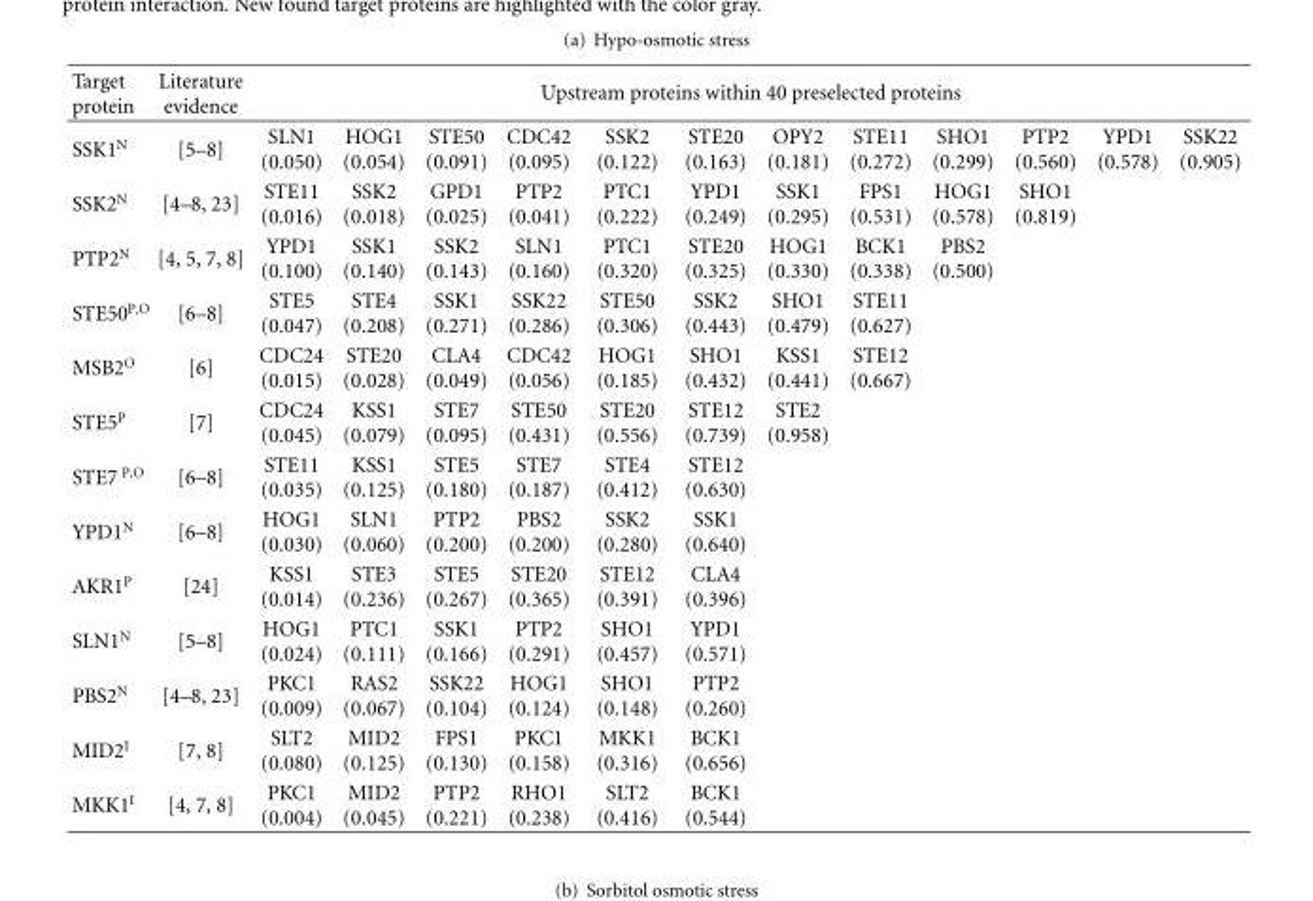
<table><thead><tr><td rowspan="2">Target protein SSK1<sup>N</sup></td><td rowspan="2">Literature evidence [5–8]</td><td colspan="12">Upstream proteins within 40 preselected proteins</td></tr><tr><td>SLN1 (0.050)</td><td>HOG1 (0.054)</td><td>STE50 (0.091)</td><td>CDC42 (0.095)</td><td>SSK2 (0.122)</td><td>STE20 (0.163)</td><td>OPY2 (0.181)</td><td>STE11 (0.272)</td><td>SHO1 (0.299)</td><td>PTP2 (0.560)</td><td>YPD1 (0.578)</td><td>SSK22 (0.905)</td></tr></thead><tbody><tr><td>SSK2<sup>N</sup></td><td>[4–8, 23]</td><td>STE11 (0.016)</td><td>SSK2 (0.018)</td><td>GPD1 (0.025)</td><td>PTP2 (0.041)</td><td>PTC1 (0.222)</td><td>YPD1 (0.249)</td><td>SSK1 (0.295)</td><td>FPS1 (0.531)</td><td>HOG1 (0.578)</td><td>SHO1 (0.819)</td><td></td><td></td></tr><tr><td>PTP2<sup>N</sup></td><td>[4, 5, 7, 8]</td><td>YPD1 (0.100)</td><td>SSK1 (0.140)</td><td>SSK2 (0.143)</td><td>SLN1 (0.160)</td><td>PTC1 (0.320)</td><td>STE20 (0.325)</td><td>HOG1 (0.330)</td><td>BCK1 (0.338)</td><td>PBS2 (0.500)</td><td></td><td></td><td></td></tr><tr><td>STE50<sup>P,O</sup></td><td>[6–8]</td><td>STE5 (0.047)</td><td>STE4 (0.208)</td><td>SSK1 (0.271)</td><td>SSK22 (0.286)</td><td>STE50 (0.306)</td><td>SSK2 (0.443)</td><td>SHO1 (0.479)</td><td>STE11 (0.627)</td><td></td><td></td><td></td><td></td></tr><tr><td>MSB2<sup>O</sup></td><td>[6]</td><td>CDC24 (0.015)</td><td>STE20 (0.028)</td><td>CLA4 (0.049)</td><td>CDC42 (0.056)</td><td>HOG1 (0.185)</td><td>SHO1 (0.432)</td><td>KSS1 (0.441)</td><td>STE12 (0.667)</td><td></td><td></td><td></td><td></td></tr><tr><td>STE5<sup>P</sup></td><td>[7]</td><td>CDC24 (0.045)</td><td>KSS1 (0.079)</td><td>STE7 (0.095)</td><td>STE50 (0.431)</td><td>STE20 (0.556)</td><td>STE12 (0.739)</td><td>STE2 (0.958)</td><td></td><td></td><td></td><td></td><td></td></tr><tr><td>STE7 <sup>P,O</sup></td><td>[6–8]</td><td>STE11 (0.035)</td><td>KSS1 (0.125)</td><td>STE5 (0.180)</td><td>STE7 (0.187)</td><td>STE4 (0.412)</td><td>STE12 (0.630)</td><td></td><td></td><td></td><td></td><td></td><td></td></tr><tr><td>YPD1<sup>N</sup></td><td>[6–8]</td><td>HOG1 (0.030)</td><td>SLN1 (0.060)</td><td>PTP2 (0.200)</td><td>PBS2 (0.200)</td><td>SSK2 (0.280)</td><td>SSK1 (0.640)</td><td></td><td></td><td></td><td></td><td></td><td></td></tr><tr><td>AKR1<sup>P</sup></td><td>[24]</td><td>KSS1 (0.014)</td><td>STE3 (0.236)</td><td>STE5 (0.267)</td><td>STE20 (0.365)</td><td>STE12 (0.391)</td><td>CLA4 (0.396)</td><td></td><td></td><td></td><td></td><td></td><td></td></tr><tr><td>SLN1<sup>N</sup></td><td>[5–8]</td><td>HOG1 (0.024)</td><td>PTC1 (0.111)</td><td>SSK1 (0.166)</td><td>PTP2 (0.291)</td><td>SHO1 (0.457)</td><td>YPD1 (0.571)</td><td></td><td></td><td></td><td></td><td></td><td></td></tr><tr><td>PBS2<sup>N</sup></td><td>[4–8, 23]</td><td>PKC1 (0.009)</td><td>RAS2 (0.067)</td><td>SSK22 (0.104)</td><td>HOG1 (0.124)</td><td>SHO1 (0.148)</td><td>PTP2 (0.260)</td><td></td><td></td><td></td><td></td><td></td><td></td></tr><tr><td>MID2<sup>I</sup></td><td>[7, 8]</td><td>SLT2 (0.080)</td><td>MID2 (0.125)</td><td>FPS1 (0.130)</td><td>PKC1 (0.158)</td><td>MKK1 (0.316)</td><td>BCK1 (0.656)</td><td></td><td></td><td></td><td></td><td></td><td></td></tr><tr><td>MKK1<sup>I</sup></td><td>[4, 7, 8]</td><td>PKC1 (0.004)</td><td>MID2 (0.045)</td><td>PTP2 (0.221)</td><td>RHO1 (0.238)</td><td>SLT2 (0.416)</td><td>BCK1 (0.544)</td><td></td><td></td><td></td><td></td><td></td><td></td></tr></tbody></table>